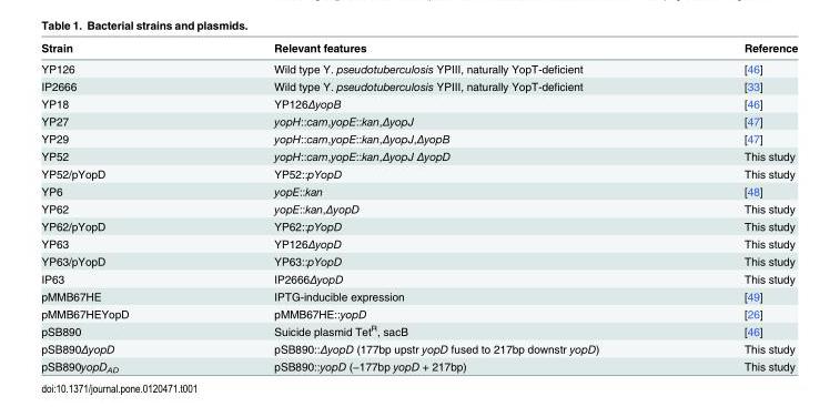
<table><thead><tr><td>Strain</td><td>Relevant features</td><td>Reference</td></tr></thead><tbody><tr><td>YP126</td><td>Wild type Y. pseudotuberculosis YPIII, naturally YopT-deficient</td><td>[46]</td></tr><tr><td>IP2666</td><td>Wild type Y. pseudotuberculosis YPIII, naturally YopT-deficient</td><td>[33]</td></tr><tr><td>YP18</td><td>YP126ΔyopB</td><td>[46]</td></tr><tr><td>YP27</td><td>yopH::cam,yopE::kan,ΔyopJ</td><td>[47]</td></tr><tr><td>YP29</td><td>yopH::cam,yopE::kan,ΔyopJ,ΔyopB</td><td>[47]</td></tr><tr><td>YP52</td><td>yopH::cam,yopE::kan,ΔyopJ ΔyopD</td><td>This study</td></tr><tr><td>YP52/pYopD</td><td>YP52::pYopD</td><td>This study</td></tr><tr><td>YP6</td><td>yopE::kan</td><td>[48]</td></tr><tr><td>YP62</td><td>yopE::kan,ΔyopD</td><td>This study</td></tr><tr><td>YP62/pYopD</td><td>YP62::pYopD</td><td>This study</td></tr><tr><td>YP63</td><td>YP126ΔyopD</td><td>This study</td></tr><tr><td>YP63/pYopD</td><td>YP63::pYopD</td><td>This study</td></tr><tr><td>IP63</td><td>IP2666ΔyopD</td><td>This study</td></tr><tr><td>pMMB67HE</td><td>IPTG-inducible expression</td><td>[49]</td></tr><tr><td>pMMB67HEYopD</td><td>pMMB67HE::yopD</td><td>[26]</td></tr><tr><td>pSB890</td><td>Suicide plasmid Tet<sup>R</sup>, sacB</td><td>[46]</td></tr><tr><td>pSB890ΔyopD</td><td>pSB890::ΔyopD (177bp upstr yopD fused to 217bp downstr yopD)</td><td>This study</td></tr><tr><td>pSB890yopD<sub>AD</sub></td><td>pSB890::yopD (−177bp yopD + 217bp)</td><td>This study</td></tr></tbody></table>